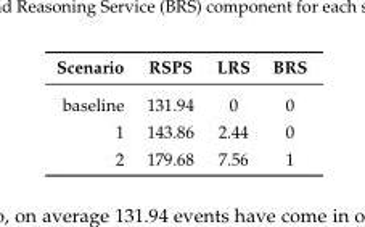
<table><thead><tr><td>Scenario</td><td>RSPS</td><td>LRS</td><td>BRS</td></tr></thead><tbody><tr><td>baseline</td><td>131.94</td><td>0</td><td>0</td></tr><tr><td>1</td><td>143.86</td><td>2.44</td><td>0</td></tr><tr><td>2</td><td>179.68</td><td>7.56</td><td>1</td></tr></tbody></table>